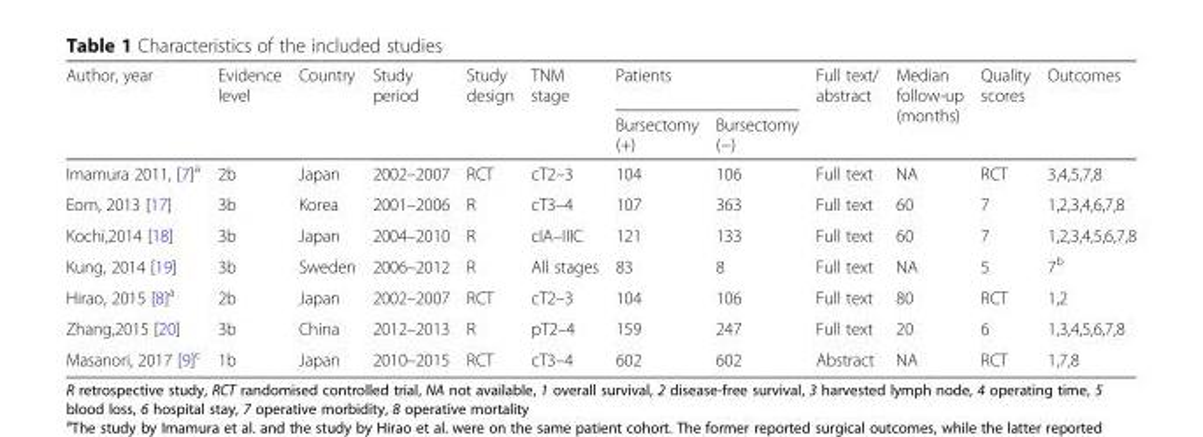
<table><thead><tr><td rowspan="2">Author, year</td><td rowspan="2">Evidence level</td><td rowspan="2">Country</td><td rowspan="2">Study period</td><td rowspan="2">Study design</td><td rowspan="2">TNM stage</td><td colspan="2">Patients</td><td rowspan="2">Full text/ abstract</td><td rowspan="2">Median follow-up (months)</td><td rowspan="2">Quality scores</td><td rowspan="2">Outcomes</td></tr><tr><td>Bursectomy (+)</td><td>Bursectomy (−)</td></tr></thead><tbody><tr><td>Imamura 2011, [7]<sup>a</sup></td><td>2b</td><td>Japan</td><td>2002–2007</td><td>RCT</td><td>cT2–3</td><td>104</td><td>106</td><td>Full text</td><td>NA</td><td>RCT</td><td>3,4,5,7,8</td></tr><tr><td>Eom, 2013 [17]</td><td>3b</td><td>Korea</td><td>2001–2006</td><td>R</td><td>cT3–4</td><td>107</td><td>363</td><td>Full text</td><td>60</td><td>7</td><td>1,2,3,4,6,7,8</td></tr><tr><td>Kochi,2014 [18]</td><td>3b</td><td>Japan</td><td>2004–2010</td><td>R</td><td>cIA–IIIC</td><td>121</td><td>133</td><td>Full text</td><td>60</td><td>7</td><td>1,2,3,4,5,6,7,8</td></tr><tr><td>Kung, 2014 [19]</td><td>3b</td><td>Sweden</td><td>2006–2012</td><td>R</td><td>All stages</td><td>83</td><td>8</td><td>Full text</td><td>NA</td><td>5</td><td>7<sup>b</sup></td></tr><tr><td>Hirao, 2015 [8]<sup>a</sup></td><td>2b</td><td>Japan</td><td>2002–2007</td><td>RCT</td><td>cT2–3</td><td>104</td><td>106</td><td>Full text</td><td>80</td><td>RCT</td><td>1,2</td></tr><tr><td>Zhang,2015 [20]</td><td>3b</td><td>China</td><td>2012–2013</td><td>R</td><td>pT2–4</td><td>159</td><td>247</td><td>Full text</td><td>20</td><td>6</td><td>1,3,4,5,6,7,8</td></tr><tr><td>Masanori, 2017 [9]<sup>c</sup></td><td>1b</td><td>Japan</td><td>2010–2015</td><td>RCT</td><td>cT3–4</td><td>602</td><td>602</td><td>Abstract</td><td>NA</td><td>RCT</td><td>1,7,8</td></tr></tbody></table>